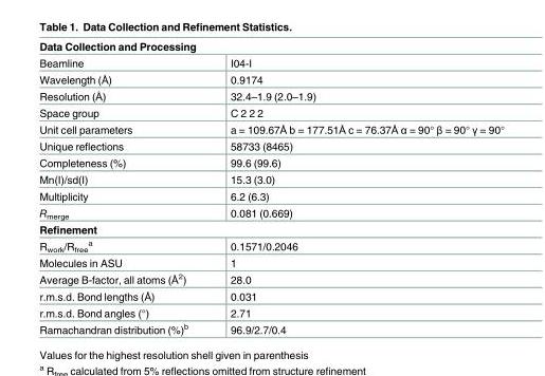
<table><tbody><tr><td colspan="2">Data Collection and Processing</td></tr><tr><td>Beamline</td><td>I04-I</td></tr><tr><td>Wavelength (Å)</td><td>0.9174</td></tr><tr><td>Resolution (Å)</td><td>32.4–1.9 (2.0–1.9)</td></tr><tr><td>Space group</td><td>C 2 2 2</td></tr><tr><td>Unit cell parameters</td><td>a = 109.67Å b = 177.51Å c = 76.37Å α = 90° β = 90° γ = 90°</td></tr><tr><td>Unique reflections</td><td>58733 (8465)</td></tr><tr><td>Completeness (%)</td><td>99.6 (99.6)</td></tr><tr><td>Mn(I)/sd(I)</td><td>15.3 (3.0)</td></tr><tr><td>Multiplicity</td><td>6.2 (6.3)</td></tr><tr><td>R<sub>merge</sub></td><td>0.081 (0.669)</td></tr><tr><td colspan="2">Refinement</td></tr><tr><td>R<sub>work</sub>/R<sub>free</sub> <sup>a</sup></td><td>0.1571/0.2046</td></tr><tr><td>Molecules in ASU</td><td>1</td></tr><tr><td>Average B-factor, all atoms (Å<sup>2</sup>)</td><td>28.0</td></tr><tr><td>r.m.s.d. Bond lengths (Å)</td><td>0.031</td></tr><tr><td>r.m.s.d. Bond angles (°)</td><td>2.71</td></tr><tr><td>Ramachandran distribution (%)<sup>b</sup></td><td>96.9/2.7/0.4</td></tr></tbody></table>